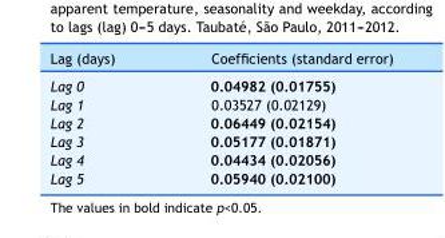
<table><thead><tr><td>Lag (days)</td><td>Coefficients (standard error)</td></tr></thead><tbody><tr><td>Lag 0</td><td>0.04982 (0.01755)</td></tr><tr><td>Lag 1</td><td>0.03527 (0.02129)</td></tr><tr><td>Lag 2</td><td>0.06449 (0.02154)</td></tr><tr><td>Lag 3</td><td>0.05177 (0.01871)</td></tr><tr><td>Lag 4</td><td>0.04434 (0.02056)</td></tr><tr><td>Lag 5</td><td>0.05940 (0.02100)</td></tr></tbody></table>